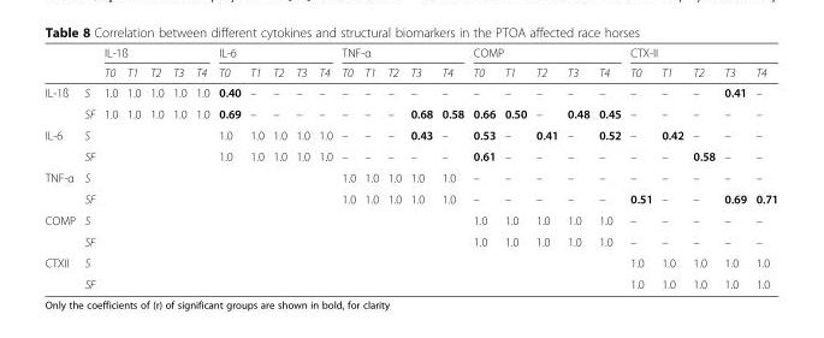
<table><thead><tr><td rowspan="2"></td><td rowspan="2"></td><td colspan="5">IL-1ß</td><td colspan="5">IL-6</td><td colspan="5">TNF-α</td><td colspan="5">COMP</td><td colspan="5">CTX-II</td></tr><tr><td>T0</td><td>T1</td><td>T2</td><td>T3</td><td>T4</td><td>T0</td><td>T1</td><td>T2</td><td>T3</td><td>T4</td><td>T0</td><td>T1</td><td>T2</td><td>T3</td><td>T4</td><td>T0</td><td>T1</td><td>T2</td><td>T3</td><td>T4</td><td>T0</td><td>T1</td><td>T2</td><td>T3</td><td>T4</td></tr></thead><tbody><tr><td rowspan="2">IL-1ß</td><td>S</td><td>1.0</td><td>1.0</td><td>1.0</td><td>1.0</td><td>1.0</td><td>0.40</td><td>–</td><td>–</td><td>–</td><td>–</td><td>–</td><td>–</td><td>–</td><td>–</td><td>–</td><td>–</td><td>–</td><td>–</td><td>–</td><td>–</td><td>–</td><td>–</td><td>–</td><td>0.41</td><td>–</td></tr><tr><td>SF</td><td>1.0</td><td>1.0</td><td>1.0</td><td>1.0</td><td>1.0</td><td>0.69</td><td>–</td><td>–</td><td>–</td><td>–</td><td>–</td><td>–</td><td>–</td><td>0.68</td><td>0.58</td><td>0.66</td><td>0.50</td><td>–</td><td>0.48</td><td>0.45</td><td>–</td><td>–</td><td>–</td><td>–</td><td>–</td></tr><tr><td rowspan="2">IL-6</td><td>S</td><td></td><td></td><td></td><td></td><td></td><td>1.0</td><td>1.0</td><td>1.0</td><td>1.0</td><td>1.0</td><td>–</td><td>–</td><td>–</td><td>0.43</td><td>–</td><td>0.53</td><td>–</td><td>0.41</td><td>–</td><td>0.52</td><td>–</td><td>0.42</td><td>–</td><td>–</td><td>–</td></tr><tr><td>SF</td><td></td><td></td><td></td><td></td><td></td><td>1.0</td><td>1.0</td><td>1.0</td><td>1.0</td><td>1.0</td><td>–</td><td>–</td><td>–</td><td>–</td><td>–</td><td>0.61</td><td>–</td><td>–</td><td>–</td><td>–</td><td>–</td><td>–</td><td>0.58</td><td>–</td><td>–</td></tr><tr><td rowspan="2">TNF-α</td><td>S</td><td></td><td></td><td></td><td></td><td></td><td></td><td></td><td></td><td></td><td></td><td>1.0</td><td>1.0</td><td>1.0</td><td>1.0</td><td>1.0</td><td>–</td><td>–</td><td>–</td><td>–</td><td>–</td><td>–</td><td>–</td><td>–</td><td>–</td><td>–</td></tr><tr><td>SF</td><td></td><td></td><td></td><td></td><td></td><td></td><td></td><td></td><td></td><td></td><td>1.0</td><td>1.0</td><td>1.0</td><td>1.0</td><td>1.0</td><td>–</td><td>–</td><td>–</td><td>–</td><td>–</td><td>0.51</td><td>–</td><td>–</td><td>0.69</td><td>0.71</td></tr><tr><td rowspan="2">COMP</td><td>S</td><td></td><td></td><td></td><td></td><td></td><td></td><td></td><td></td><td></td><td></td><td></td><td></td><td></td><td></td><td></td><td>1.0</td><td>1.0</td><td>1.0</td><td>1.0</td><td>1.0</td><td>–</td><td>–</td><td>–</td><td>–</td><td>–</td></tr><tr><td>SF</td><td></td><td></td><td></td><td></td><td></td><td></td><td></td><td></td><td></td><td></td><td></td><td></td><td></td><td></td><td></td><td>1.0</td><td>1.0</td><td>1.0</td><td>1.0</td><td>1.0</td><td>–</td><td>–</td><td>–</td><td>–</td><td>–</td></tr><tr><td rowspan="2">CTXII</td><td>S</td><td></td><td></td><td></td><td></td><td></td><td></td><td></td><td></td><td></td><td></td><td></td><td></td><td></td><td></td><td></td><td></td><td></td><td></td><td></td><td></td><td>1.0</td><td>1.0</td><td>1.0</td><td>1.0</td><td>1.0</td></tr><tr><td>SF</td><td></td><td></td><td></td><td></td><td></td><td></td><td></td><td></td><td></td><td></td><td></td><td></td><td></td><td></td><td></td><td></td><td></td><td></td><td></td><td></td><td>1.0</td><td>1.0</td><td>1.0</td><td>1.0</td><td>1.0</td></tr></tbody></table>